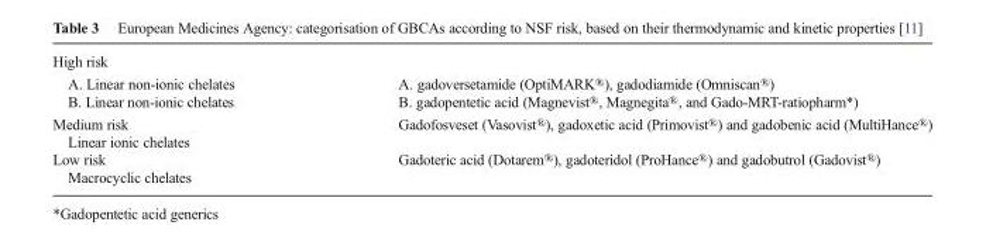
<table><tbody><tr><td colspan="2">High risk</td></tr><tr><td>A. Linear non-ionic chelates B. Linear non-ionic chelates</td><td>A. gadoversetamide (OptiMARK®), gadodiamide (Omniscan®) B. gadopentetic acid (Magnevist®, Magnegita®, and Gado-MRT-ratiopharm*)</td></tr><tr><td>Medium risk Linear ionic chelates</td><td>Gadofosveset (Vasovist®), gadoxetic acid (Primovist®) and gadobenic acid (MultiHance®)</td></tr><tr><td>Low risk Macrocyclic chelates</td><td>Gadoteric acid (Dotarem®), gadoteridol (ProHance®) and gadobutrol (Gadovist®)</td></tr></tbody></table>